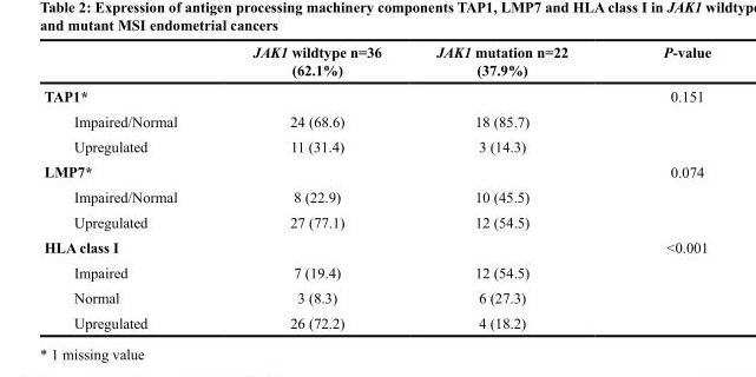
<table><thead><tr><td></td><td>JAK1 wildtype n=36 (62.1%)</td><td>JAK1 mutation n=22 (37.9%)</td><td>P-value</td></tr></thead><tbody><tr><td>TAP1*</td><td></td><td></td><td>0.151</td></tr><tr><td>Impaired/Normal</td><td>24 (68.6)</td><td>18 (85.7)</td><td></td></tr><tr><td>Upregulated</td><td>11 (31.4)</td><td>3 (14.3)</td><td></td></tr><tr><td>LMP7*</td><td></td><td></td><td>0.074</td></tr><tr><td>Impaired/Normal</td><td>8 (22.9)</td><td>10 (45.5)</td><td></td></tr><tr><td>Upregulated</td><td>27 (77.1)</td><td>12 (54.5)</td><td></td></tr><tr><td>HLA class I</td><td></td><td></td><td>&lt;0.001</td></tr><tr><td>Impaired</td><td>7 (19.4)</td><td>12 (54.5)</td><td></td></tr><tr><td>Normal</td><td>3 (8.3)</td><td>6 (27.3)</td><td></td></tr><tr><td>Upregulated</td><td>26 (72.2)</td><td>4 (18.2)</td><td></td></tr></tbody></table>